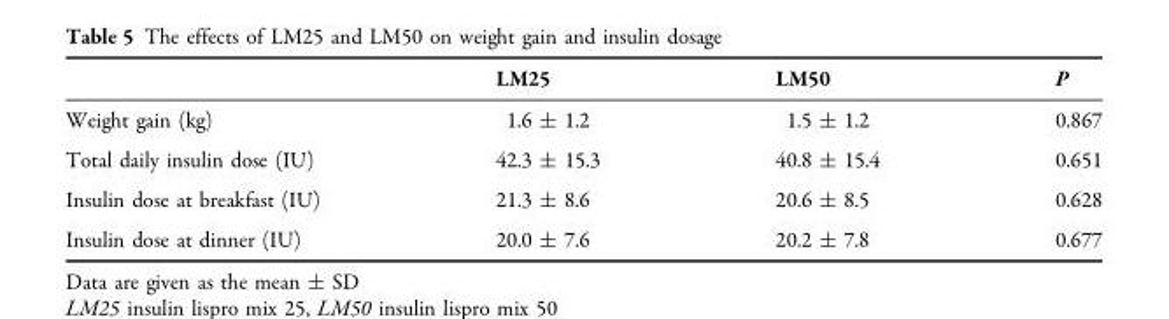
<table><thead><tr><td></td><td>LM25</td><td>LM50</td><td>P</td></tr></thead><tbody><tr><td>Weight gain (kg)</td><td>1.6 ± 1.2</td><td>1.5 ± 1.2</td><td>0.867</td></tr><tr><td>Total daily insulin dose (IU)</td><td>42.3 ± 15.3</td><td>40.8 ± 15.4</td><td>0.651</td></tr><tr><td>Insulin dose at breakfast (IU)</td><td>21.3 ± 8.6</td><td>20.6 ± 8.5</td><td>0.628</td></tr><tr><td>Insulin dose at dinner (IU)</td><td>20.0 ± 7.6</td><td>20.2 ± 7.8</td><td>0.677</td></tr></tbody></table>